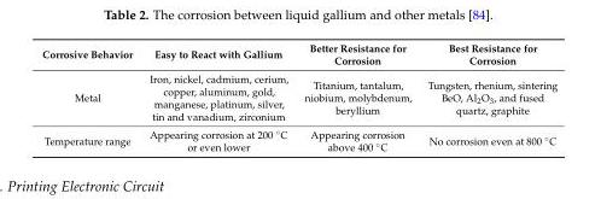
<table><thead><tr><td>Corrosive Behavior</td><td>Easy to React with Gallium</td><td>Better Resistance for Corrosion</td><td>Best Resistance for Corrosion</td></tr></thead><tbody><tr><td>Metal</td><td>Iron, nickel, cadmium, cerium, copper, aluminum, gold, manganese, platinum, silver, tin and vanadium, zirconium</td><td>Titanium, tantalum, niobium, molybdenum, beryllium</td><td>Tungsten, rhenium, sintering BeO, Al<sub>2</sub>O<sub>3</sub>, and fused quartz, graphite</td></tr><tr><td>Temperature range</td><td>Appearing corrosion at 200 ◦C or even lower</td><td>Appearing corrosion above 400 ◦C</td><td>No corrosion even at 800 ◦C</td></tr></tbody></table>